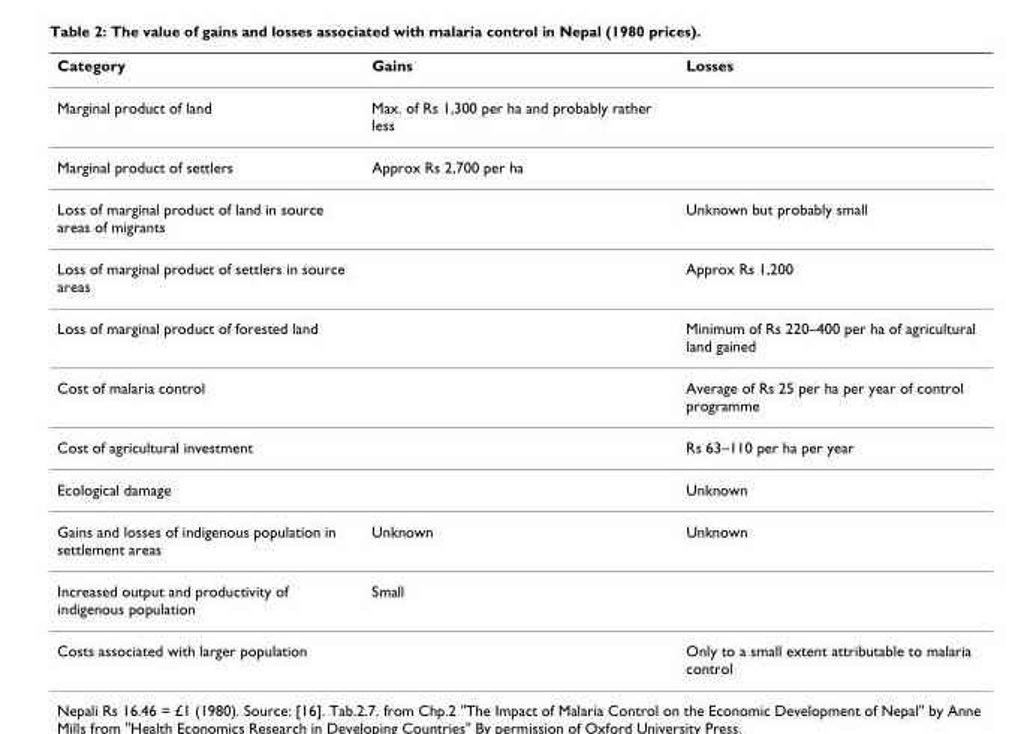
<table><thead><tr><td>Category</td><td>Gains</td><td>Losses</td></tr></thead><tbody><tr><td>Marginal product of land</td><td>Max. of Rs 1,300 per ha and probably rather less</td><td></td></tr><tr><td>Marginal product of settlers</td><td>Approx Rs 2,700 per ha</td><td></td></tr><tr><td>Loss of marginal product of land in source areas of migrants</td><td></td><td>Unknown but probably small</td></tr><tr><td>Loss of marginal product of settlers in source areas</td><td></td><td>Approx Rs 1,200</td></tr><tr><td>Loss of marginal product of forested land</td><td></td><td>Minimum of Rs 220–400 per ha of agricultural land gained</td></tr><tr><td>Cost of malaria control</td><td></td><td>Average of Rs 25 per ha per year of control programme</td></tr><tr><td>Cost of agricultural investment</td><td></td><td>Rs 63–110 per ha per year</td></tr><tr><td>Ecological damage</td><td></td><td>Unknown</td></tr><tr><td>Gains and losses of indigenous population in settlement areas</td><td>Unknown</td><td>Unknown</td></tr><tr><td>Increased output and productivity of indigenous population</td><td>Small</td><td></td></tr><tr><td>Costs associated with larger population</td><td></td><td>Only to a small extent attributable to malaria control</td></tr></tbody></table>